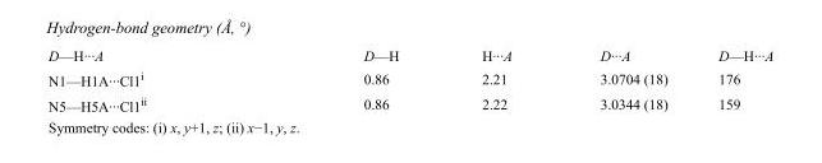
<table><tbody><tr><td>D—H···A</td><td>D—H</td><td>H···A</td><td>D···A</td><td>D—H···A</td></tr><tr><td>N1—H1A···Cl1<sup>i</sup></td><td>0.86</td><td>2.21</td><td>3.0704 (18)</td><td>176</td></tr><tr><td>N5—H5A···Cl1<sup>ii</sup></td><td>0.86</td><td>2.22</td><td>3.0344 (18)</td><td>159</td></tr></tbody></table>